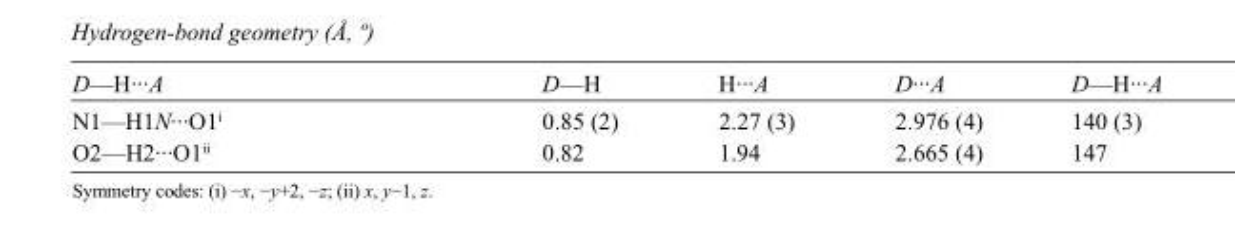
<table><tbody><tr><td>D—H···A</td><td>D—H</td><td>H···A</td><td>D···A</td><td>D—H···A</td></tr><tr><td>N1—H1N···O1<sup>i</sup></td><td>0.85 (2)</td><td>2.27 (3)</td><td>2.976 (4)</td><td>140 (3)</td></tr><tr><td>O2—H2···O1<sup>ii</sup></td><td>0.82</td><td>1.94</td><td>2.665 (4)</td><td>147</td></tr></tbody></table>